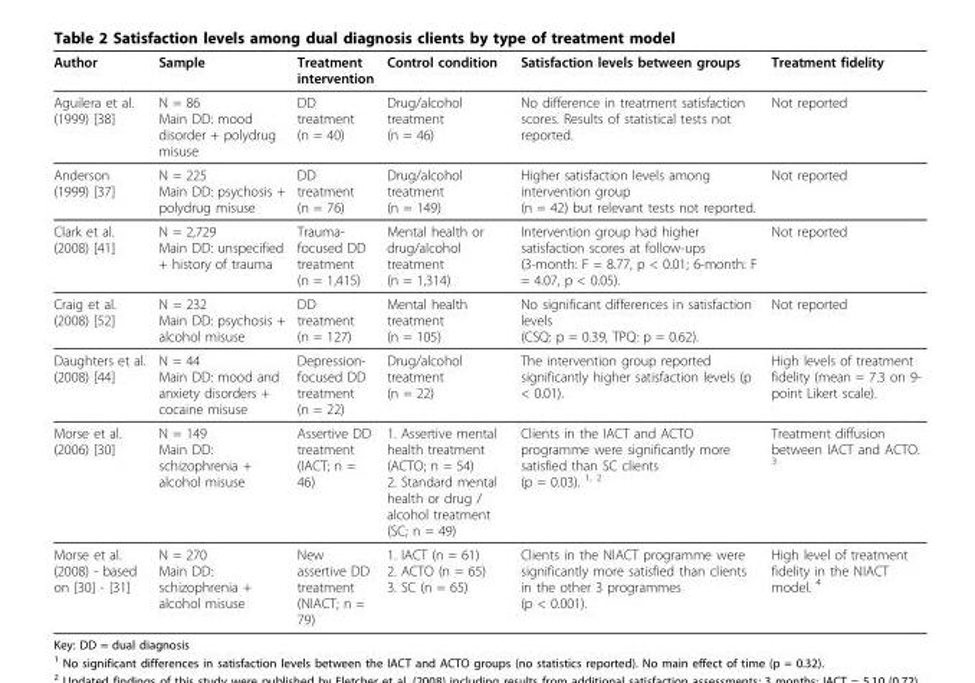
<table><thead><tr><td>Author</td><td>Sample</td><td>Treatment intervention</td><td>Control condition</td><td>Satisfaction levels between groups</td><td>Treatment fidelity</td></tr></thead><tbody><tr><td>Aguilera et al. (1999) [38]</td><td>N = 86 Main DD: mood disorder + polydrug misuse</td><td>DD treatment (n = 40)</td><td>Drug/alcohol treatment (n = 46)</td><td>No difference in treatment satisfaction scores. Results of statistical tests not reported.</td><td>Not reported</td></tr><tr><td>Anderson (1999) [37]</td><td>N = 225 Main DD: psychosis + polydrug misuse</td><td>DD treatment (n = 76)</td><td>Drug/alcohol treatment (n = 149)</td><td>Higher satisfaction levels among intervention group (n = 42) but relevant tests not reported.</td><td>Not reported</td></tr><tr><td>Clark et al. (2008) [41]</td><td>N = 2,729 Main DD: unspecified + history of trauma</td><td>Trauma- focused DD treatment (n = 1,415)</td><td>Mental health or drug/alcohol treatment (n = 1,314)</td><td>Intervention group had higher satisfaction scores at follow-ups (3-month: F = 8.77, p &lt; 0.01; 6-month: F = 4.07, p &lt; 0.05).</td><td>Not reported</td></tr><tr><td>Craig et al. (2008) [52]</td><td>N = 232 Main DD: psychosis + alcohol misuse</td><td>DD treatment (n = 127)</td><td>Mental health treatment (n = 105)</td><td>No significant differences in satisfaction levels (CSQ: p = 0.39, TPQ: p = 0.62).</td><td>Not reported</td></tr><tr><td>Daughters et al. (2008) [44]</td><td>N = 44 Main DD: mood and anxiety disorders + cocaine misuse</td><td>Depression- focused DD treatment (n = 22)</td><td>Drug/alcohol treatment (n = 22)</td><td>The intervention group reported significantly higher satisfaction levels (p &lt; 0.01).</td><td>High levels of treatment fidelity (mean = 7.3 on 9- point Likert scale).</td></tr><tr><td>Morse et al. (2006) [30]</td><td>N = 149 Main DD: schizophrenia + alcohol misuse</td><td>Assertive DD treatment (IACT; n = 46)</td><td>1. Assertive mental health treatment (ACTO; n = 54) 2. Standard mental health or drug / alcohol treatment (SC; n = 49)</td><td>Clients in the IACT and ACTO programme were significantly more satisfied than SC clients (p = 0.03). <sup>1, 2</sup></td><td>Treatment diffusion between IACT and ACTO. <sup>3</sup></td></tr><tr><td>Morse et al. (2008) - based on [30] - [31]</td><td>N = 270 Main DD: schizophrenia + alcohol misuse</td><td>New assertive DD treatment (NIACT; n = 79)</td><td>1. IACT (n = 61) 2. ACTO (n = 65) 3. SC (n = 65)</td><td>Clients in the NIACT programme were significantly more satisfied than clients in the other 3 programmes (p &lt; 0.001).</td><td>High level of treatment fidelity in the NIACT model. <sup>4</sup></td></tr></tbody></table>